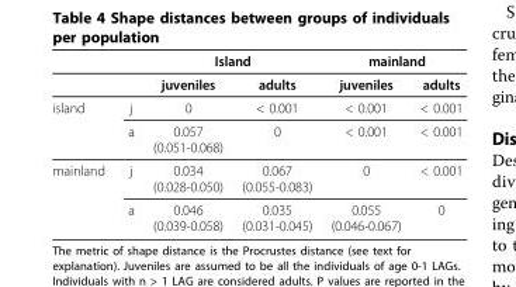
<table><thead><tr><td rowspan="2"></td><td rowspan="2"></td><td colspan="2">Island</td><td colspan="2">mainland</td></tr><tr><td>juveniles</td><td>adults</td><td>juveniles</td><td>adults</td></tr></thead><tbody><tr><td rowspan="2">island</td><td>j</td><td>0</td><td>&lt; 0.001</td><td>&lt; 0.001</td><td>&lt; 0.001</td></tr><tr><td>a</td><td>0.057 (0.051-0.068)</td><td>0</td><td>&lt; 0.001</td><td>&lt; 0.001</td></tr><tr><td rowspan="2">mainland</td><td>j</td><td>0.034 (0.028-0.050)</td><td>0.067 (0.055-0.083)</td><td>0</td><td>&lt; 0.001</td></tr><tr><td>a</td><td>0.046 (0.039-0.058)</td><td>0.035 (0.031-0.045)</td><td>0.055 (0.046-0.067)</td><td>0</td></tr></tbody></table>